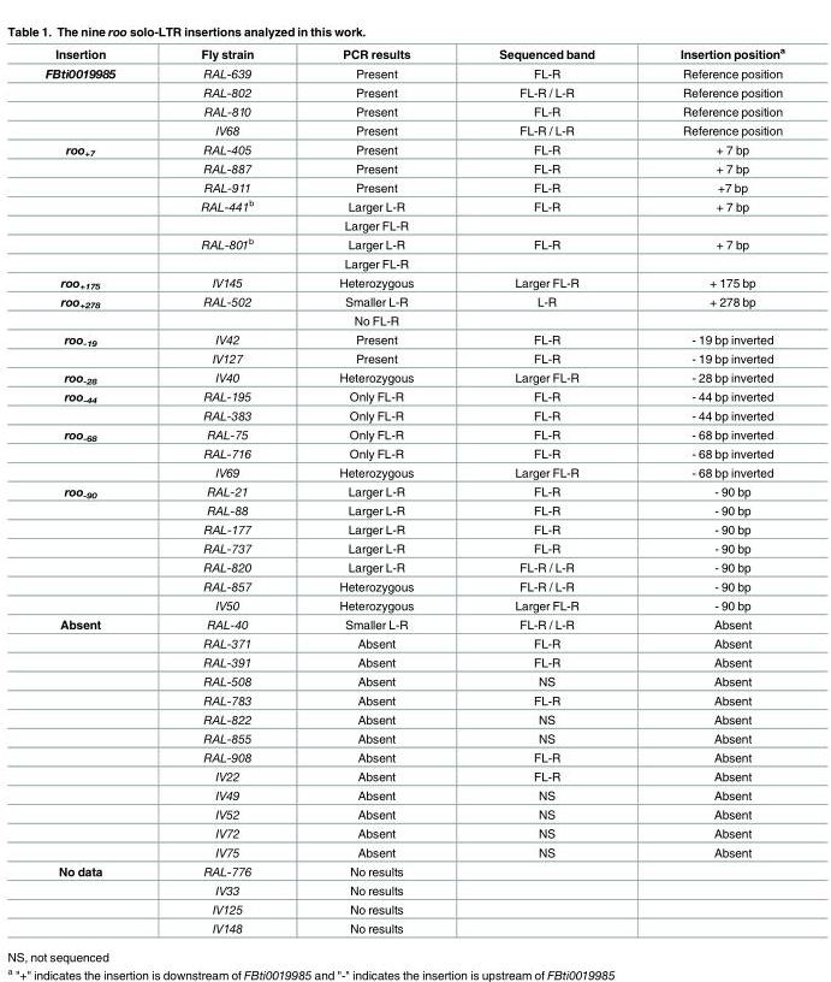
<table><thead><tr><td>Insertion</td><td>Fly strain</td><td>PCR results</td><td>Sequenced band</td><td>Insertion position<sup>a</sup></td></tr></thead><tbody><tr><td rowspan="4">FBti0019985</td><td>RAL-639</td><td>Present</td><td>FL-R</td><td>Reference position</td></tr><tr><td>RAL-802</td><td>Present</td><td>FL-R / L-R</td><td>Reference position</td></tr><tr><td>RAL-810</td><td>Present</td><td>FL-R</td><td>Reference position</td></tr><tr><td>IV68</td><td>Present</td><td>FL-R / L-R</td><td>Reference position</td></tr><tr><td rowspan="7">roo<sub>+7</sub></td><td>RAL-405</td><td>Present</td><td>FL-R</td><td>+ 7 bp</td></tr><tr><td>RAL-887</td><td>Present</td><td>FL-R</td><td>+ 7 bp</td></tr><tr><td>RAL-911</td><td>Present</td><td>FL-R</td><td>+7 bp</td></tr><tr><td>RAL-441<sup>b</sup></td><td>Larger L-R</td><td>FL-R</td><td>+ 7 bp</td></tr><tr><td></td><td>Larger FL-R</td><td></td><td></td></tr><tr><td>RAL-801<sup>b</sup></td><td>Larger L-R</td><td>FL-R</td><td>+ 7 bp</td></tr><tr><td></td><td>Larger FL-R</td><td></td><td></td></tr><tr><td>roo<sub>+175</sub></td><td>IV145</td><td>Heterozygous</td><td>Larger FL-R</td><td>+ 175 bp</td></tr><tr><td rowspan="2">roo<sub>+278</sub></td><td>RAL-502</td><td>Smaller L-R</td><td>L-R</td><td>+ 278 bp</td></tr><tr><td></td><td>No FL-R</td><td></td><td></td></tr><tr><td rowspan="2">roo<sub>-19</sub></td><td>IV42</td><td>Present</td><td>FL-R</td><td>- 19 bp inverted</td></tr><tr><td>IV127</td><td>Present</td><td>FL-R</td><td>- 19 bp inverted</td></tr><tr><td>roo<sub>-28</sub></td><td>IV40</td><td>Heterozygous</td><td>Larger FL-R</td><td>- 28 bp inverted</td></tr><tr><td rowspan="2">roo<sub>-44</sub></td><td>RAL-195</td><td>Only FL-R</td><td>FL-R</td><td>- 44 bp inverted</td></tr><tr><td>RAL-383</td><td>Only FL-R</td><td>FL-R</td><td>- 44 bp inverted</td></tr><tr><td rowspan="3">roo<sub>-68</sub></td><td>RAL-75</td><td>Only FL-R</td><td>FL-R</td><td>- 68 bp inverted</td></tr><tr><td>RAL-716</td><td>Only FL-R</td><td>FL-R</td><td>- 68 bp inverted</td></tr><tr><td>IV69</td><td>Heterozygous</td><td>Larger FL-R</td><td>- 68 bp inverted</td></tr><tr><td rowspan="7">roo<sub>-90</sub></td><td>RAL-21</td><td>Larger L-R</td><td>FL-R</td><td>- 90 bp</td></tr><tr><td>RAL-88</td><td>Larger L-R</td><td>FL-R</td><td>- 90 bp</td></tr><tr><td>RAL-177</td><td>Larger L-R</td><td>FL-R</td><td>- 90 bp</td></tr><tr><td>RAL-737</td><td>Larger L-R</td><td>FL-R</td><td>- 90 bp</td></tr><tr><td>RAL-820</td><td>Larger L-R</td><td>FL-R / L-R</td><td>- 90 bp</td></tr><tr><td>RAL-857</td><td>Heterozygous</td><td>FL-R / L-R</td><td>- 90 bp</td></tr><tr><td>IV50</td><td>Heterozygous</td><td>Larger FL-R</td><td>- 90 bp</td></tr><tr><td rowspan="13">Absent</td><td>RAL-40</td><td>Smaller L-R</td><td>FL-R / L-R</td><td>Absent</td></tr><tr><td>RAL-371</td><td>Absent</td><td>FL-R</td><td>Absent</td></tr><tr><td>RAL-391</td><td>Absent</td><td>FL-R</td><td>Absent</td></tr><tr><td>RAL-508</td><td>Absent</td><td>NS</td><td>Absent</td></tr><tr><td>RAL-783</td><td>Absent</td><td>FL-R</td><td>Absent</td></tr><tr><td>RAL-822</td><td>Absent</td><td>NS</td><td>Absent</td></tr><tr><td>RAL-855</td><td>Absent</td><td>NS</td><td>Absent</td></tr><tr><td>RAL-908</td><td>Absent</td><td>FL-R</td><td>Absent</td></tr><tr><td>IV22</td><td>Absent</td><td>FL-R</td><td>Absent</td></tr><tr><td>IV49</td><td>Absent</td><td>NS</td><td>Absent</td></tr><tr><td>IV52</td><td>Absent</td><td>NS</td><td>Absent</td></tr><tr><td>IV72</td><td>Absent</td><td>NS</td><td>Absent</td></tr><tr><td>IV75</td><td>Absent</td><td>NS</td><td>Absent</td></tr><tr><td rowspan="4">No data</td><td>RAL-776</td><td>No results</td><td></td><td></td></tr><tr><td>IV33</td><td>No results</td><td></td><td></td></tr><tr><td>IV125</td><td>No results</td><td></td><td></td></tr><tr><td>IV148</td><td>No results</td><td></td><td></td></tr></tbody></table>